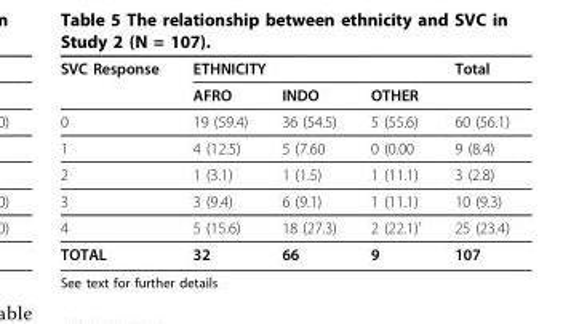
<table><thead><tr><td rowspan="2">SVC Response</td><td colspan="3">ETHNICITY</td><td rowspan="2">Total</td></tr><tr><td>AFRO</td><td>INDO</td><td>OTHER</td></tr></thead><tbody><tr><td>0</td><td>19 (59.4)</td><td>36 (54.5)</td><td>5 (55.6)</td><td>60 (56.1)</td></tr><tr><td>1</td><td>4 (12.5)</td><td>5 (7.60</td><td>0 (0.00</td><td>9 (8.4)</td></tr><tr><td>2</td><td>1 (3.1)</td><td>1 (1.5)</td><td>1 (11.1)</td><td>3 (2.8)</td></tr><tr><td>3</td><td>3 (9.4)</td><td>6 (9.1)</td><td>1 (11.1)</td><td>10 (9.3)</td></tr><tr><td>4</td><td>5 (15.6)</td><td>18 (27.3)</td><td>2 (22.1)’</td><td>25 (23.4)</td></tr><tr><td>TOTAL</td><td>32</td><td>66</td><td>9</td><td>107</td></tr></tbody></table>